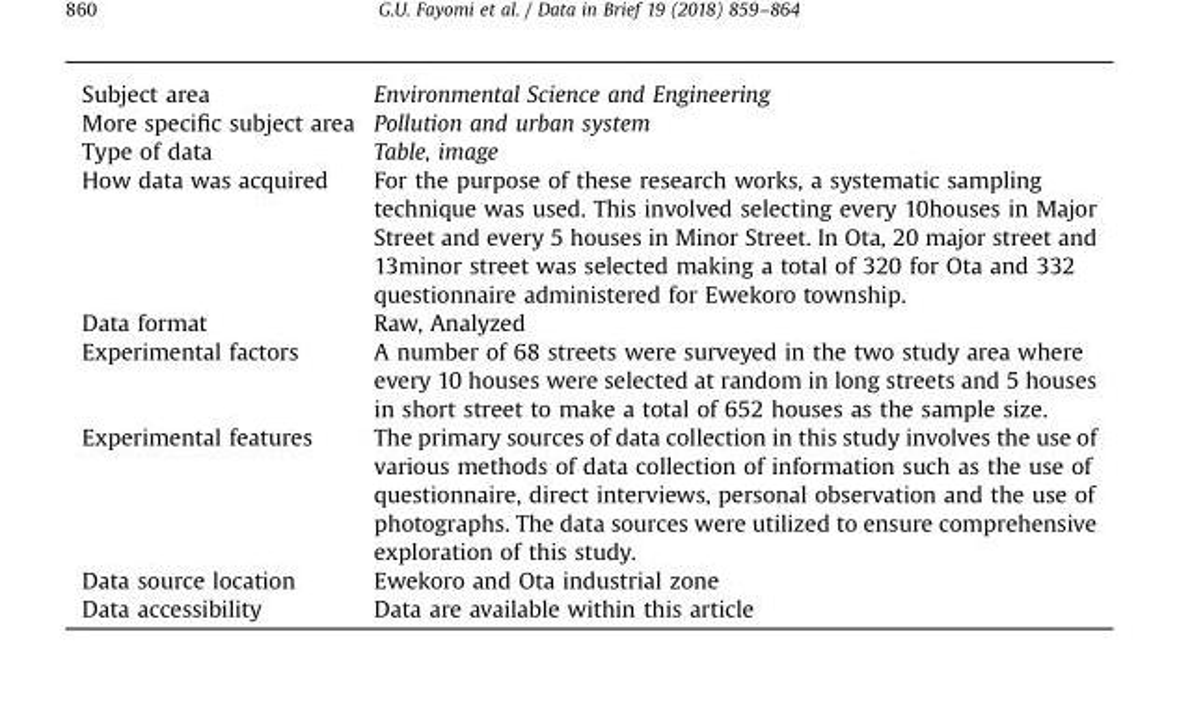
<table><thead><tr><td>Subject area</td><td>Environmental Science and Engineering</td></tr></thead><tbody><tr><td>More specific subject area</td><td>Pollution and urban system</td></tr><tr><td>Type of data</td><td>Table, image</td></tr><tr><td>How data was acquired</td><td>For the purpose of these research works, a systematic sampling technique was used. This involved selecting every 10houses in Major Street and every 5 houses in Minor Street. In Ota, 20 major street and 13minor street was selected making a total of 320 for Ota and 332 questionnaire administered for Ewekoro township.</td></tr><tr><td>Data format</td><td>Raw, Analyzed</td></tr><tr><td>Experimental factors</td><td>A number of 68 streets were surveyed in the two study area where every 10 houses were selected at random in long streets and 5 houses in short street to make a total of 652 houses as the sample size.</td></tr><tr><td>Experimental features</td><td>The primary sources of data collection in this study involves the use of various methods of data collection of information such as the use of questionnaire, direct interviews, personal observation and the use of photographs. The data sources were utilized to ensure comprehensive exploration of this study.</td></tr><tr><td>Data source location</td><td>Ewekoro and Ota industrial zone</td></tr><tr><td>Data accessibility</td><td>Data are available within this article</td></tr></tbody></table>